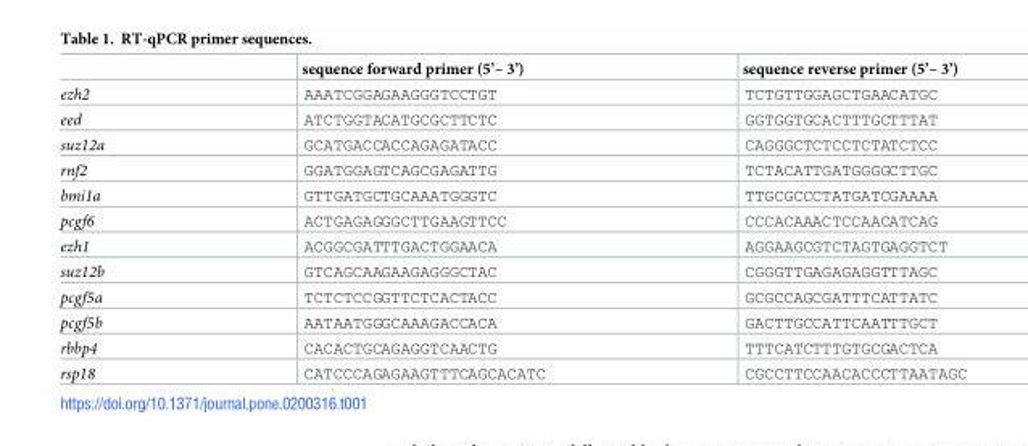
<table><thead><tr><td></td><td>sequence forward primer (5’– 3’)</td><td>sequence reverse primer (5’– 3’)</td></tr></thead><tbody><tr><td>ezh2</td><td>AAATCGGAGAAGGGTCCTGT</td><td>TCTGTTGGAGCTGAACATGC</td></tr><tr><td>eed</td><td>ATCTGGTACATGCGCTTCTC</td><td>GGTGGTGCACTTTGCTTTAT</td></tr><tr><td>suz12a</td><td>GCATGACCACCAGAGATACC</td><td>CAGGGCTCTCCTCTATCTCC</td></tr><tr><td>rnf2</td><td>GGATGGAGTCAGCGAGATTG</td><td>TCTACATTGATGGGGCTTGC</td></tr><tr><td>bmi1a</td><td>GTTGATGCTGCAAATGGGTC</td><td>TTGCGCCCTATGATCGAAAA</td></tr><tr><td>pcgf6</td><td>ACTGAGAGGGCTTGAAGTTCC</td><td>CCCACAAACTCCAACATCAG</td></tr><tr><td>ezh1</td><td>ACGGCGATTTGACTGGAACA</td><td>AGGAAGCGTCTAGTGAGGTCT</td></tr><tr><td>suz12b</td><td>GTCAGCAAGAAGAGGGCTAC</td><td>CGGGTTGAGAGAGGTTTAGC</td></tr><tr><td>pcgf5a</td><td>TCTCTCCGGTTCTCACTACC</td><td>GCGCCAGCGATTTCATTATC</td></tr><tr><td>pcgf5b</td><td>AATAATGGGCAAAGACCACA</td><td>GACTTGCCATTCAATTTGCT</td></tr><tr><td>rbbp4</td><td>CACACTGCAGAGGTCAACTG</td><td>TTTCATCTTTGTGCGACTCA</td></tr><tr><td>rsp18</td><td>CATCCCAGAGAAGTTTCAGCACATC</td><td>CGCCTTCCAACACCCTTAATAGC</td></tr></tbody></table>